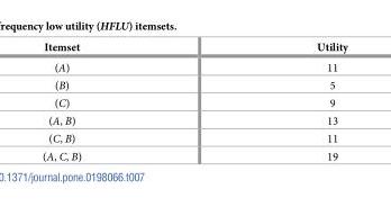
<table><thead><tr><td>Itemset</td><td>Utility</td></tr></thead><tbody><tr><td>(A)</td><td>11</td></tr><tr><td>(B)</td><td>5</td></tr><tr><td>(C)</td><td>9</td></tr><tr><td>(A, B)</td><td>13</td></tr><tr><td>(C, B)</td><td>11</td></tr><tr><td>(A, C, B)</td><td>19</td></tr></tbody></table>